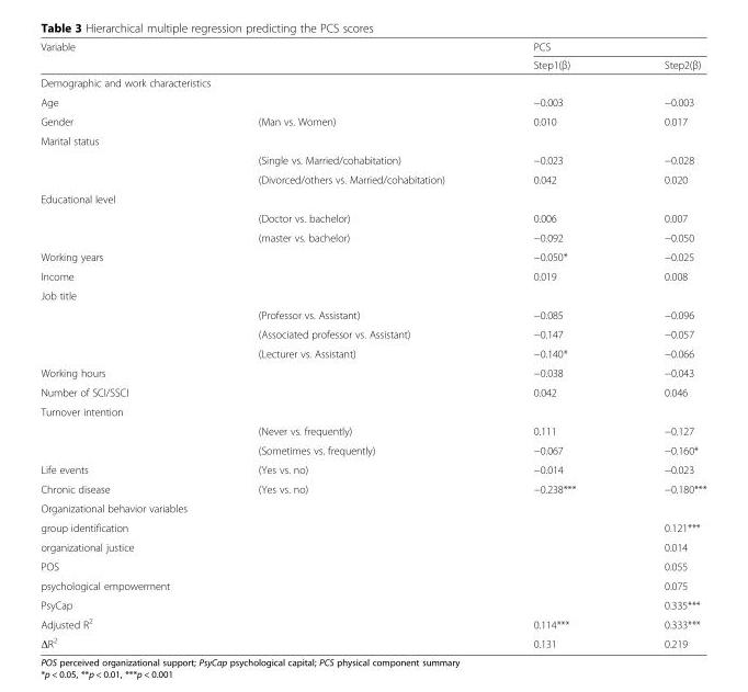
<table><thead><tr><td rowspan="2">Variable</td><td rowspan="2"></td><td colspan="2">PCS</td></tr><tr><td>Step1(β)</td><td>Step2(β)</td></tr></thead><tbody><tr><td colspan="4">Demographic and work characteristics</td></tr><tr><td>Age</td><td></td><td>−0.003</td><td>−0.003</td></tr><tr><td>Gender</td><td>(Man vs. Women)</td><td>0.010</td><td>0.017</td></tr><tr><td colspan="4">Marital status</td></tr><tr><td></td><td>(Single vs. Married/cohabitation)</td><td>−0.023</td><td>−0.028</td></tr><tr><td></td><td>(Divorced/others vs. Married/cohabitation)</td><td>0.042</td><td>0.020</td></tr><tr><td colspan="4">Educational level</td></tr><tr><td></td><td>(Doctor vs. bachelor)</td><td>0.006</td><td>0.007</td></tr><tr><td></td><td>(master vs. bachelor)</td><td>−0.092</td><td>−0.050</td></tr><tr><td>Working years</td><td></td><td>−0.050*</td><td>−0.025</td></tr><tr><td>Income</td><td></td><td>0.019</td><td>0.008</td></tr><tr><td colspan="4">Job title</td></tr><tr><td></td><td>(Professor vs. Assistant)</td><td>−0.085</td><td>−0.096</td></tr><tr><td></td><td>(Associated professor vs. Assistant)</td><td>−0.147</td><td>−0.057</td></tr><tr><td></td><td>(Lecturer vs. Assistant)</td><td>−0.140*</td><td>−0.066</td></tr><tr><td>Working hours</td><td></td><td>−0.038</td><td>−0.043</td></tr><tr><td>Number of SCI/SSCI</td><td></td><td>0.042</td><td>0.046</td></tr><tr><td colspan="4">Turnover intention</td></tr><tr><td></td><td>(Never vs. frequently)</td><td>0.111</td><td>−0.127</td></tr><tr><td></td><td>(Sometimes vs. frequently)</td><td>−0.067</td><td>−0.160*</td></tr><tr><td>Life events</td><td>(Yes vs. no)</td><td>−0.014</td><td>−0.023</td></tr><tr><td>Chronic disease</td><td>(Yes vs. no)</td><td>−0.238***</td><td>−0.180***</td></tr><tr><td colspan="4">Organizational behavior variables</td></tr><tr><td>group identification</td><td></td><td></td><td>0.121***</td></tr><tr><td>organizational justice</td><td></td><td></td><td>0.014</td></tr><tr><td>POS</td><td></td><td></td><td>0.055</td></tr><tr><td>psychological empowerment</td><td></td><td></td><td>0.075</td></tr><tr><td>PsyCap</td><td></td><td></td><td>0.335***</td></tr><tr><td>Adjusted R<sup>2</sup></td><td></td><td>0.114***</td><td>0.333***</td></tr><tr><td>ΔR<sup>2</sup></td><td></td><td>0.131</td><td>0.219</td></tr></tbody></table>